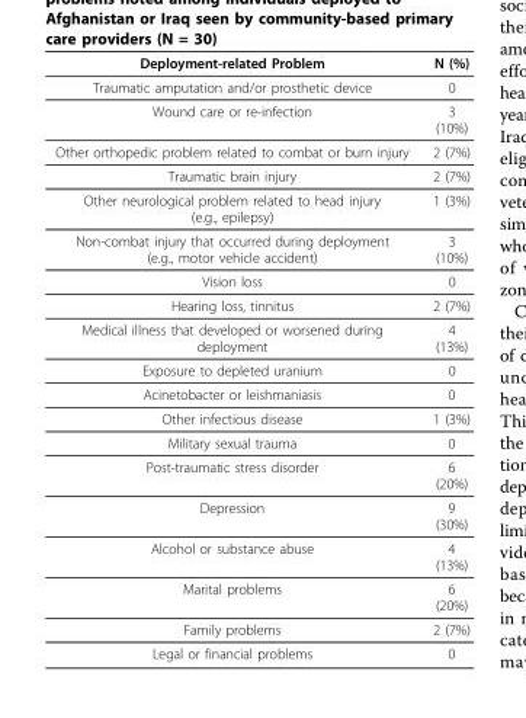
<table><thead><tr><td>Deployment-related Problem</td><td>N (%)</td></tr></thead><tbody><tr><td>Traumatic amputation and/or prosthetic device</td><td>0</td></tr><tr><td>Wound care or re-infection</td><td>3 (10%)</td></tr><tr><td>Other orthopedic problem related to combat or burn injury</td><td>2 (7%)</td></tr><tr><td>Traumatic brain injury</td><td>2 (7%)</td></tr><tr><td>Other neurological problem related to head injury (e.g., epilepsy)</td><td>1 (3%)</td></tr><tr><td>Non-combat injury that occurred during deployment (e.g., motor vehicle accident)</td><td>3 (10%)</td></tr><tr><td>Vision loss</td><td>0</td></tr><tr><td>Hearing loss, tinnitus</td><td>2 (7%)</td></tr><tr><td>Medical illness that developed or worsened during deployment</td><td>4 (13%)</td></tr><tr><td>Exposure to depleted uranium</td><td>0</td></tr><tr><td>Acinetobacter or leishmaniasis</td><td>0</td></tr><tr><td>Other infectious disease</td><td>1 (3%)</td></tr><tr><td>Military sexual trauma</td><td>0</td></tr><tr><td>Post-traumatic stress disorder</td><td>6 (20%)</td></tr><tr><td>Depression</td><td>9 (30%)</td></tr><tr><td>Alcohol or substance abuse</td><td>4 (13%)</td></tr><tr><td>Marital problems</td><td>6 (20%)</td></tr><tr><td>Family problems</td><td>2 (7%)</td></tr><tr><td>Legal or financial problems</td><td>0</td></tr></tbody></table>